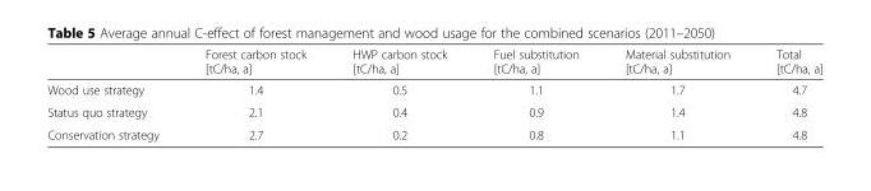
<table><thead><tr><td></td><td>Forest carbon stock [tC/ha, a]</td><td>HWP carbon stock [tC/ha, a]</td><td>Fuel substitution [tC/ha, a]</td><td>Material substitution [tC/ha, a]</td><td>Total [tC/ha, a]</td></tr></thead><tbody><tr><td>Wood use strategy</td><td>1.4</td><td>0.5</td><td>1.1</td><td>1.7</td><td>4.7</td></tr><tr><td>Status quo strategy</td><td>2.1</td><td>0.4</td><td>0.9</td><td>1.4</td><td>4.8</td></tr><tr><td>Conservation strategy</td><td>2.7</td><td>0.2</td><td>0.8</td><td>1.1</td><td>4.8</td></tr></tbody></table>